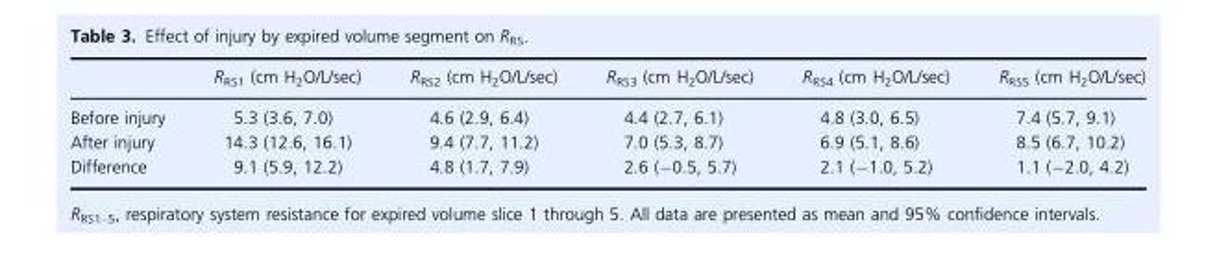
<table><thead><tr><td></td><td>R<sub>RS1</sub> (cm H<sub>2</sub>O/L/sec)</td><td>R<sub>RS2</sub> (cm H<sub>2</sub>O/L/sec)</td><td>R<sub>RS3</sub> (cm H<sub>2</sub>O/L/sec)</td><td>R<sub>RS4</sub> (cm H<sub>2</sub>O/L/sec)</td><td>R<sub>RS5</sub> (cm H<sub>2</sub>O/L/sec)</td></tr></thead><tbody><tr><td>Before injury</td><td>5.3 (3.6, 7.0)</td><td>4.6 (2.9, 6.4)</td><td>4.4 (2.7, 6.1)</td><td>4.8 (3.0, 6.5)</td><td>7.4 (5.7, 9.1)</td></tr><tr><td>After injury</td><td>14.3 (12.6, 16.1)</td><td>9.4 (7.7, 11.2)</td><td>7.0 (5.3, 8.7)</td><td>6.9 (5.1, 8.6)</td><td>8.5 (6.7, 10.2)</td></tr><tr><td>Difference</td><td>9.1 (5.9, 12.2)</td><td>4.8 (1.7, 7.9)</td><td>2.6 (−0.5, 5.7)</td><td>2.1 (−1.0, 5.2)</td><td>1.1 (−2.0, 4.2)</td></tr></tbody></table>